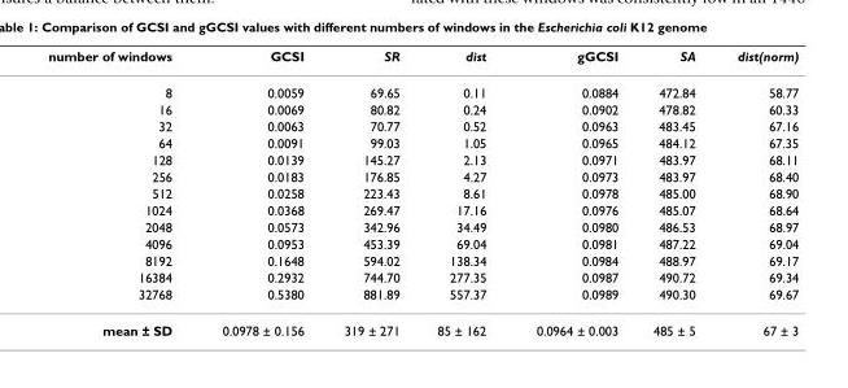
<table><thead><tr><td>number of windows</td><td>GCSI</td><td>SR</td><td>dist</td><td>gGCSI</td><td>SA</td><td>dist(norm)</td></tr></thead><tbody><tr><td>8</td><td>0.0059</td><td>69.65</td><td>0.11</td><td>0.0884</td><td>472.84</td><td>58.77</td></tr><tr><td>16</td><td>0.0069</td><td>80.82</td><td>0.24</td><td>0.0902</td><td>478.82</td><td>60.33</td></tr><tr><td>32</td><td>0.0063</td><td>70.77</td><td>0.52</td><td>0.0963</td><td>483.45</td><td>67.16</td></tr><tr><td>64</td><td>0.0091</td><td>99.03</td><td>1.05</td><td>0.0965</td><td>484.12</td><td>67.35</td></tr><tr><td>128</td><td>0.0139</td><td>145.27</td><td>2.13</td><td>0.0971</td><td>483.97</td><td>68.11</td></tr><tr><td>256</td><td>0.0183</td><td>176.85</td><td>4.27</td><td>0.0973</td><td>483.97</td><td>68.40</td></tr><tr><td>512</td><td>0.0258</td><td>223.43</td><td>8.61</td><td>0.0978</td><td>485.00</td><td>68.90</td></tr><tr><td>1024</td><td>0.0368</td><td>269.47</td><td>17.16</td><td>0.0976</td><td>485.07</td><td>68.64</td></tr><tr><td>2048</td><td>0.0573</td><td>342.96</td><td>34.49</td><td>0.0980</td><td>486.53</td><td>68.97</td></tr><tr><td>4096</td><td>0.0953</td><td>453.39</td><td>69.04</td><td>0.0981</td><td>487.22</td><td>69.04</td></tr><tr><td>8192</td><td>0.1648</td><td>594.02</td><td>138.34</td><td>0.0984</td><td>488.97</td><td>69.17</td></tr><tr><td>16384</td><td>0.2932</td><td>744.70</td><td>277.35</td><td>0.0987</td><td>490.72</td><td>69.34</td></tr><tr><td>32768</td><td>0.5380</td><td>881.89</td><td>557.37</td><td>0.0989</td><td>490.30</td><td>69.67</td></tr><tr><td>mean ± SD</td><td>0.0978 ± 0.156</td><td>319 ± 271</td><td>85 ± 162</td><td>0.0964 ± 0.003</td><td>485 ± 5</td><td>67 ± 3</td></tr></tbody></table>